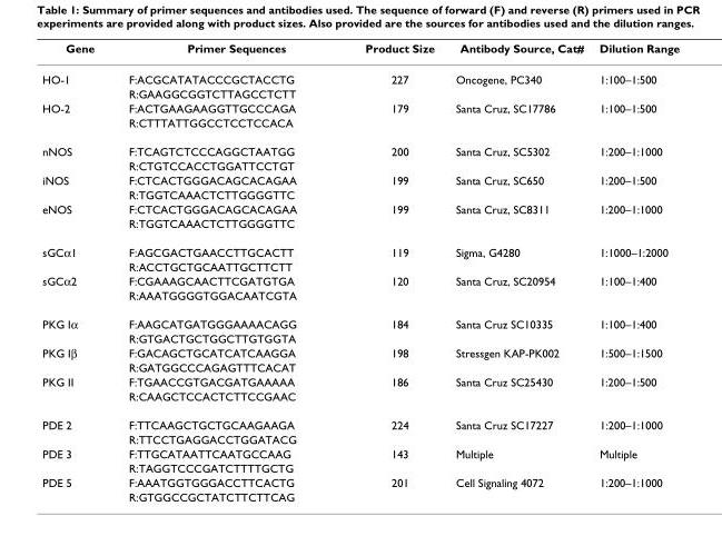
<table><thead><tr><td>Gene</td><td>Primer Sequences</td><td>Product Size</td><td>Antibody Source, Cat#</td><td>Dilution Range</td></tr></thead><tbody><tr><td rowspan="2">HO-1</td><td>F:ACGCATATACCCGCTACCTG</td><td>227</td><td>Oncogene, PC340</td><td>1:100–1:500</td></tr><tr><td>R:GAAGGCGGTCTTAGCCTCTT</td><td></td><td></td><td></td></tr><tr><td rowspan="2">HO-2</td><td>F:ACTGAAGAAGGTTGCCCAGA</td><td>179</td><td>Santa Cruz, SC17786</td><td>1:100–1:500</td></tr><tr><td>R:CTTTATTGGCCTCCTCCACA</td><td></td><td></td><td></td></tr><tr><td rowspan="2">nNOS</td><td>F:TCAGTCTCCCAGGCTAATGG</td><td>200</td><td>Santa Cruz, SC5302</td><td>1:200–1:1000</td></tr><tr><td>R:CTGTCCACCTGGATTCCTGT</td><td></td><td></td><td></td></tr><tr><td rowspan="2">iNOS</td><td>F:CTCACTGGGACAGCACAGAA</td><td>199</td><td>Santa Cruz, SC650</td><td>1:200–1:500</td></tr><tr><td>R:TGGTCAAACTCTTGGGGTTC</td><td></td><td></td><td></td></tr><tr><td rowspan="2">eNOS</td><td>F:CTCACTGGGACAGCACAGAA</td><td>199</td><td>Santa Cruz, SC8311</td><td>1:200–1:1000</td></tr><tr><td>R:TGGTCAAACTCTTGGGGTTC</td><td></td><td></td><td></td></tr><tr><td rowspan="2">sGCα1</td><td>F:AGCGACTGAACCTTGCACTT</td><td>119</td><td>Sigma, G4280</td><td>1:1000–1:2000</td></tr><tr><td>R:ACCTGCTGCAATTGCTTCTT</td><td></td><td></td><td></td></tr><tr><td rowspan="2">sGCα2</td><td>F:CGAAAGCAACTTCGATGTGA</td><td>120</td><td>Santa Cruz, SC20954</td><td>1:100–1:400</td></tr><tr><td>R:AAATGGGGTGGACAATCGTA</td><td></td><td></td><td></td></tr><tr><td rowspan="2">PKG Iα</td><td>F:AAGCATGATGGGAAAACAGG</td><td>184</td><td>Santa Cruz SC10335</td><td>1:100–1:400</td></tr><tr><td>R:GTGACTGCTGGCTTGTGGTA</td><td></td><td></td><td></td></tr><tr><td rowspan="2">PKG Iβ</td><td>F:GACAGCTGCATCATCAAGGA</td><td>198</td><td>Stressgen KAP-PK002</td><td>1:500–1:1500</td></tr><tr><td>R:GATGGCCCAGAGTTTCACAT</td><td></td><td></td><td></td></tr><tr><td rowspan="2">PKG II</td><td>F:TGAACCGTGACGATGAAAAA</td><td>186</td><td>Santa Cruz SC25430</td><td>1:200–1:500</td></tr><tr><td>R:CAAGCTCCACTCTTCCGAAC</td><td></td><td></td><td></td></tr><tr><td rowspan="2">PDE 2</td><td>F:TTCAAGCTGCTGCAAGAAGA</td><td>224</td><td>Santa Cruz SC17227</td><td>1:200–1:1000</td></tr><tr><td>R:TTCCTGAGGACCTGGATACG</td><td></td><td></td><td></td></tr><tr><td rowspan="2">PDE 3</td><td>F:TTGCATAATTCAATGCCAAG</td><td>143</td><td>Multiple</td><td>Multiple</td></tr><tr><td>R:TAGGTCCCGATCTTTTGCTG</td><td></td><td></td><td></td></tr><tr><td rowspan="2">PDE 5</td><td>F:AAATGGTGGGACCTTCACTG</td><td>201</td><td>Cell Signaling 4072</td><td>1:200–1:1000</td></tr><tr><td>R:GTGGCCGCTATCTTCTTCAG</td><td></td><td></td><td></td></tr></tbody></table>